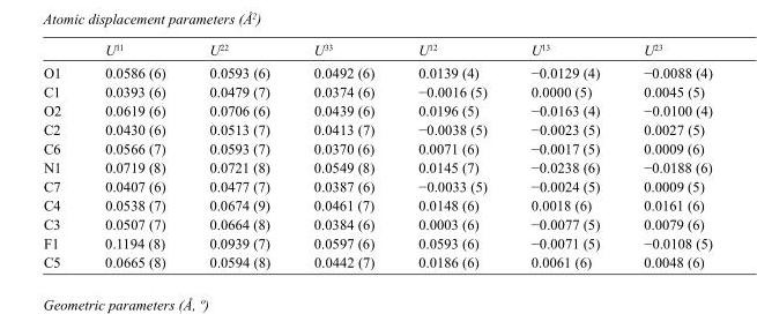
<table><thead><tr><td></td><td>U<sup>11</sup></td><td>U<sup>22</sup></td><td>U<sup>33</sup></td><td>U<sup>12</sup></td><td>U<sup>13</sup></td><td>U<sup>23</sup></td></tr></thead><tbody><tr><td>O1</td><td>0.0586 (6)</td><td>0.0593 (6)</td><td>0.0492 (6)</td><td>0.0139 (4)</td><td>−0.0129 (4)</td><td>−0.0088 (4)</td></tr><tr><td>C1</td><td>0.0393 (6)</td><td>0.0479 (7)</td><td>0.0374 (6)</td><td>−0.0016 (5)</td><td>0.0000 (5)</td><td>0.0045 (5)</td></tr><tr><td>O2</td><td>0.0619 (6)</td><td>0.0706 (6)</td><td>0.0439 (6)</td><td>0.0196 (5)</td><td>−0.0163 (4)</td><td>−0.0100 (4)</td></tr><tr><td>C2</td><td>0.0430 (6)</td><td>0.0513 (7)</td><td>0.0413 (7)</td><td>−0.0038 (5)</td><td>−0.0023 (5)</td><td>0.0027 (5)</td></tr><tr><td>C6</td><td>0.0566 (7)</td><td>0.0593 (7)</td><td>0.0370 (6)</td><td>0.0071 (6)</td><td>−0.0017 (5)</td><td>0.0009 (6)</td></tr><tr><td>N1</td><td>0.0719 (8)</td><td>0.0721 (8)</td><td>0.0549 (8)</td><td>0.0145 (7)</td><td>−0.0238 (6)</td><td>−0.0188 (6)</td></tr><tr><td>C7</td><td>0.0407 (6)</td><td>0.0477 (7)</td><td>0.0387 (6)</td><td>−0.0033 (5)</td><td>−0.0024 (5)</td><td>0.0009 (5)</td></tr><tr><td>C4</td><td>0.0538 (7)</td><td>0.0674 (9)</td><td>0.0461 (7)</td><td>0.0148 (6)</td><td>0.0018 (6)</td><td>0.0161 (6)</td></tr><tr><td>C3</td><td>0.0507 (7)</td><td>0.0664 (8)</td><td>0.0384 (6)</td><td>0.0003 (6)</td><td>−0.0077 (5)</td><td>0.0079 (6)</td></tr><tr><td>F1</td><td>0.1194 (8)</td><td>0.0939 (7)</td><td>0.0597 (6)</td><td>0.0593 (6)</td><td>−0.0071 (5)</td><td>−0.0108 (5)</td></tr><tr><td>C5</td><td>0.0665 (8)</td><td>0.0594 (8)</td><td>0.0442 (7)</td><td>0.0186 (6)</td><td>0.0061 (6)</td><td>0.0048 (6)</td></tr></tbody></table>